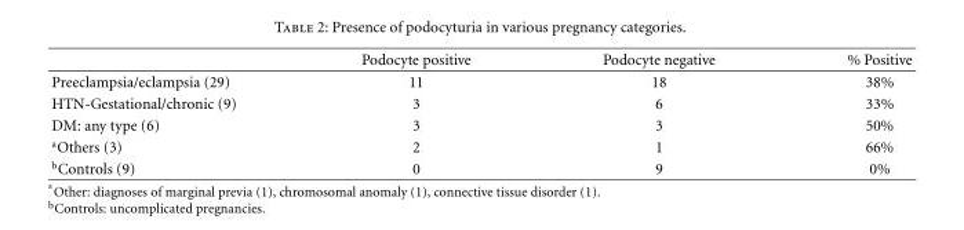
<table><thead><tr><td></td><td>Podocyte positive</td><td>Podocyte negative</td><td>% Positive</td></tr></thead><tbody><tr><td>Preeclampsia/eclampsia (29)</td><td>11</td><td>18</td><td>38%</td></tr><tr><td>HTN-Gestational/chronic (9)</td><td>3</td><td>6</td><td>33%</td></tr><tr><td>DM: any type (6)</td><td>3</td><td>3</td><td>50%</td></tr><tr><td><sup>a</sup>Others (3)</td><td>2</td><td>1</td><td>66%</td></tr><tr><td><sup>b</sup>Controls (9)</td><td>0</td><td>9</td><td>0%</td></tr></tbody></table>